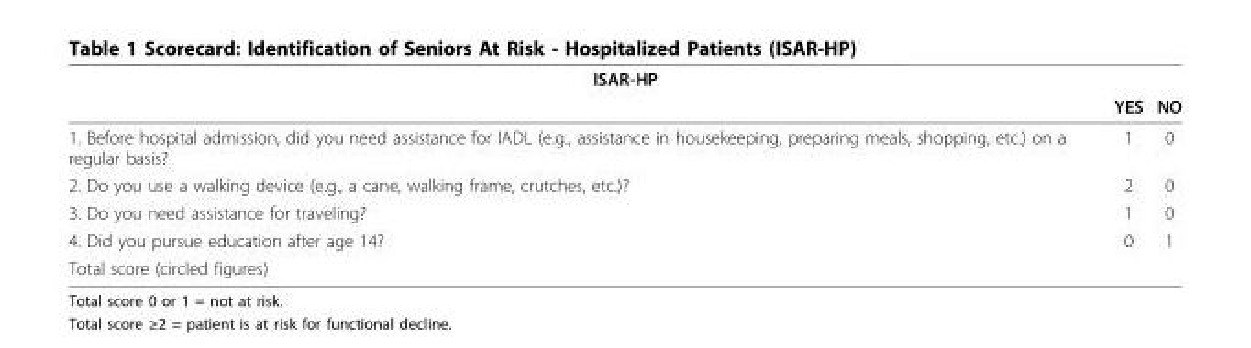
<table><thead><tr><td colspan="3">ISAR-HP</td></tr><tr><td></td><td>YES</td><td>NO</td></tr></thead><tbody><tr><td>1. Before hospital admission, did you need assistance for IADL (e.g., assistance in housekeeping, preparing meals, shopping, etc.) on a regular basis?</td><td>1</td><td>0</td></tr><tr><td>2. Do you use a walking device (e.g., a cane, walking frame, crutches, etc.)?</td><td>2</td><td>0</td></tr><tr><td>3. Do you need assistance for traveling?</td><td>1</td><td>0</td></tr><tr><td>4. Did you pursue education after age 14?</td><td>0</td><td>1</td></tr><tr><td>Total score (circled figures)</td><td></td><td></td></tr></tbody></table>